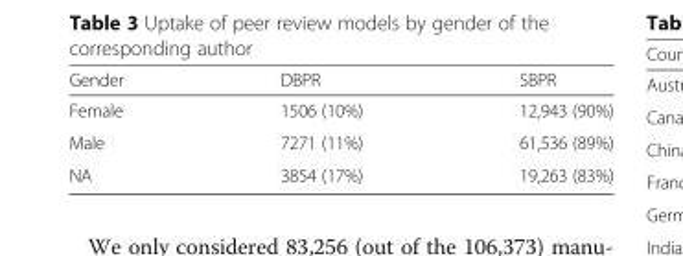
<table><thead><tr><td>Gender</td><td>DBPR</td><td>SBPR</td></tr></thead><tbody><tr><td>Female</td><td>1506 (10%)</td><td>12,943 (90%)</td></tr><tr><td>Male</td><td>7271 (11%)</td><td>61,536 (89%)</td></tr><tr><td>NA</td><td>3854 (17%)</td><td>19,263 (83%)</td></tr></tbody></table>